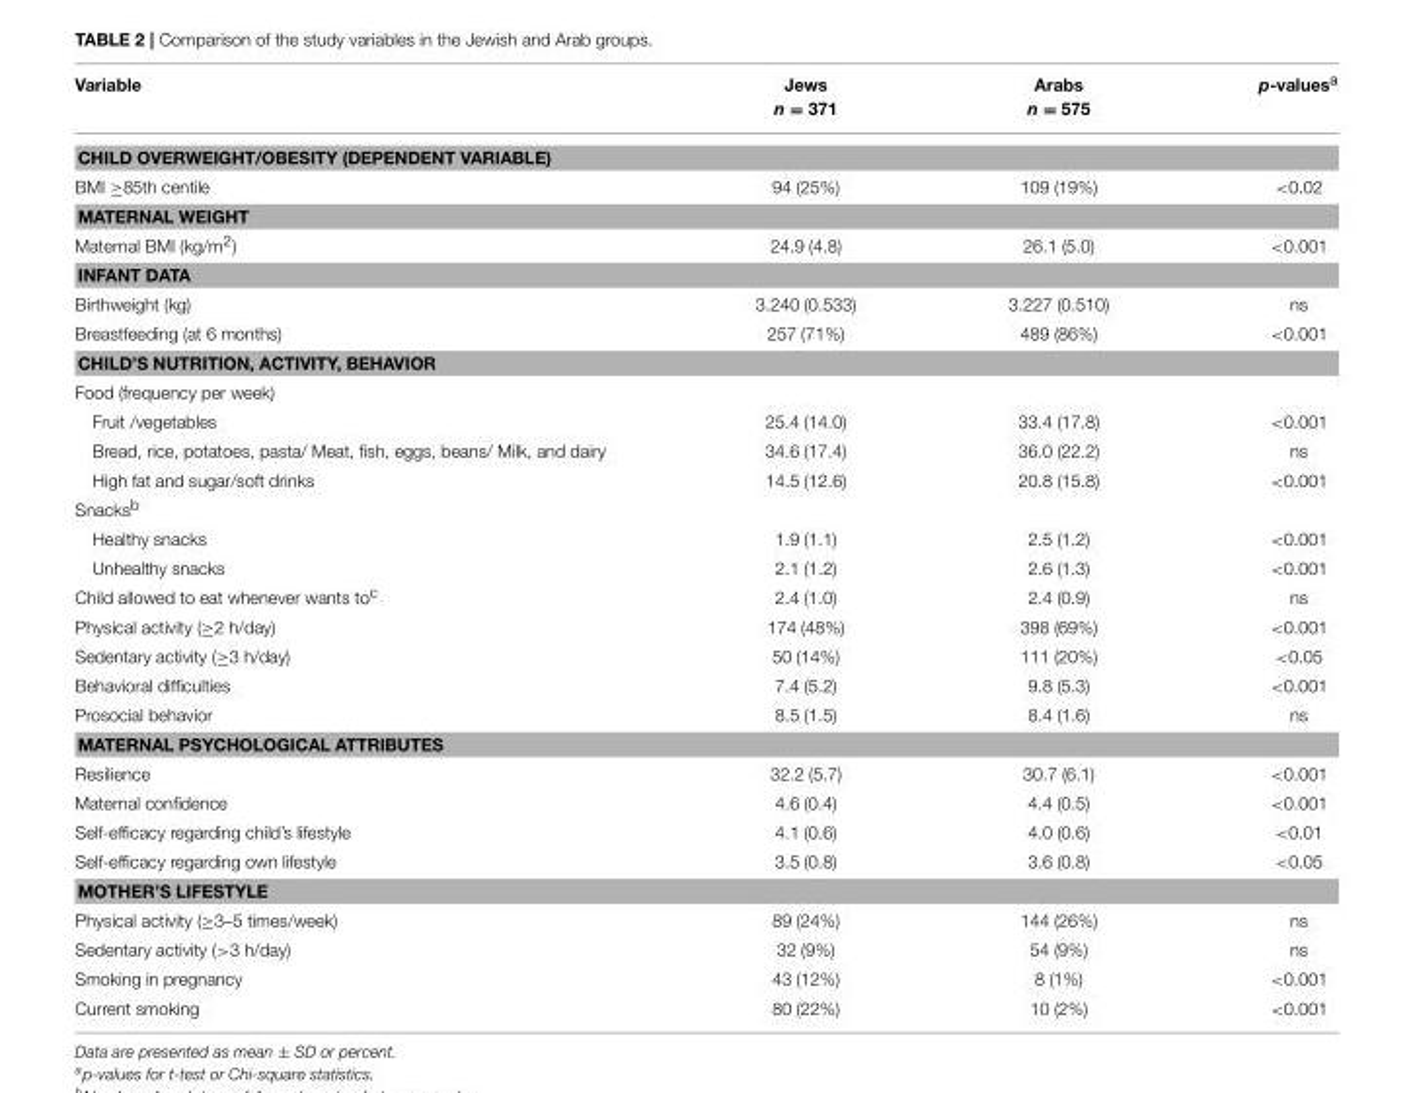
<table><thead><tr><td>Variable</td><td>Jews n = 371</td><td>Arabs n = 575</td><td>p-values<sup>a</sup></td></tr></thead><tbody><tr><td colspan="4">CHILD OVERWEIGHT/OBESITY (DEPENDENT VARIABLE)</td></tr><tr><td>BMI ≥85th centile</td><td>94 (25%)</td><td>109 (19%)</td><td>&lt;0.02</td></tr><tr><td colspan="4">MATERNAL WEIGHT</td></tr><tr><td>Maternal BMI (kg/m<sup>2</sup>)</td><td>24.9 (4.8)</td><td>26.1 (5.0)</td><td>&lt;0.001</td></tr><tr><td colspan="4">INFANT DATA</td></tr><tr><td>Birthweight (kg)</td><td>3.240 (0.533)</td><td>3.227 (0.510)</td><td>ns</td></tr><tr><td>Breastfeeding (at 6 months)</td><td>257 (71%)</td><td>489 (86%)</td><td>&lt;0.001</td></tr><tr><td colspan="4">CHILD’S NUTRITION, ACTIVITY, BEHAVIOR</td></tr><tr><td colspan="4">Food (frequency per week)</td></tr><tr><td>Fruit /vegetables</td><td>25.4 (14.0)</td><td>33.4 (17.8)</td><td>&lt;0.001</td></tr><tr><td>Bread, rice, potatoes, pasta/ Meat, fish, eggs, beans/ Milk, and dairy</td><td>34.6 (17.4)</td><td>36.0 (22.2)</td><td>ns</td></tr><tr><td>High fat and sugar/soft drinks</td><td>14.5 (12.6)</td><td>20.8 (15.8)</td><td>&lt;0.001</td></tr><tr><td colspan="4">Snacks<sup>b</sup></td></tr><tr><td>Healthy snacks</td><td>1.9 (1.1)</td><td>2.5 (1.2)</td><td>&lt;0.001</td></tr><tr><td>Unhealthy snacks</td><td>2.1 (1.2)</td><td>2.6 (1.3)</td><td>&lt;0.001</td></tr><tr><td>Child allowed to eat whenever wants to<sup>c</sup></td><td>2.4 (1.0)</td><td>2.4 (0.9)</td><td>ns</td></tr><tr><td>Physical activity (≥2 h/day)</td><td>174 (48%)</td><td>398 (69%)</td><td>&lt;0.001</td></tr><tr><td>Sedentary activity (≥3 h/day)</td><td>50 (14%)</td><td>111 (20%)</td><td>&lt;0.05</td></tr><tr><td>Behavioral difficulties</td><td>7.4 (5.2)</td><td>9.8 (5.3)</td><td>&lt;0.001</td></tr><tr><td>Prosocial behavior</td><td>8.5 (1.5)</td><td>8.4 (1.6)</td><td>ns</td></tr><tr><td colspan="4">MATERNAL PSYCHOLOGICAL ATTRIBUTES</td></tr><tr><td>Resilience</td><td>32.2 (5.7)</td><td>30.7 (6.1)</td><td>&lt;0.001</td></tr><tr><td>Maternal confidence</td><td>4.6 (0.4)</td><td>4.4 (0.5)</td><td>&lt;0.001</td></tr><tr><td>Self-efficacy regarding child’s lifestyle</td><td>4.1 (0.6)</td><td>4.0 (0.6)</td><td>&lt;0.01</td></tr><tr><td>Self-efficacy regarding own lifestyle</td><td>3.5 (0.8)</td><td>3.6 (0.8)</td><td>&lt;0.05</td></tr><tr><td colspan="4">MOTHER’S LIFESTYLE</td></tr><tr><td>Physical activity (≥3–5 times/week)</td><td>89 (24%)</td><td>144 (26%)</td><td>ns</td></tr><tr><td>Sedentary activity (&gt;3 h/day)</td><td>32 (9%)</td><td>54 (9%)</td><td>ns</td></tr><tr><td>Smoking in pregnancy</td><td>43 (12%)</td><td>8 (1%)</td><td>&lt;0.001</td></tr><tr><td>Current smoking</td><td>80 (22%)</td><td>10 (2%)</td><td>&lt;0.001</td></tr></tbody></table>